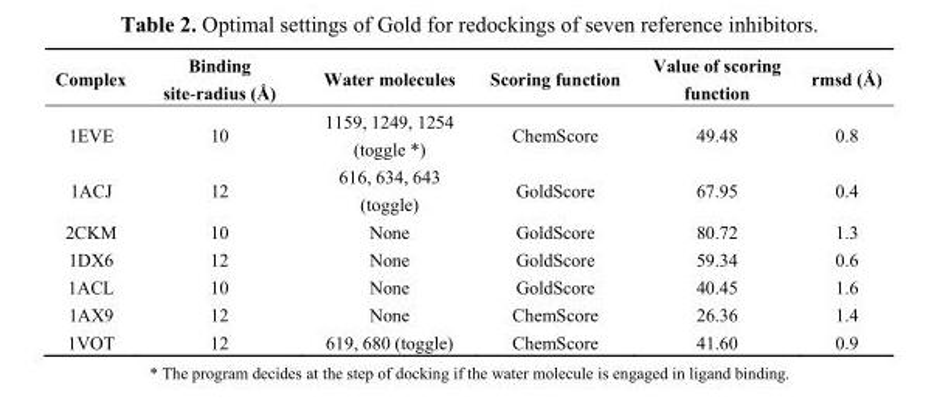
<table><thead><tr><td>Complex</td><td>Binding site-radius (Å)</td><td>Water molecules</td><td>Scoring function</td><td>Value of scoring function</td><td>rmsd (Å)</td></tr></thead><tbody><tr><td>1EVE</td><td>10</td><td>1159, 1249, 1254 (toggle *)</td><td>ChemScore</td><td>49.48</td><td>0.8</td></tr><tr><td>1ACJ</td><td>12</td><td>616, 634, 643 (toggle)</td><td>GoldScore</td><td>67.95</td><td>0.4</td></tr><tr><td>2CKM</td><td>10</td><td>None</td><td>GoldScore</td><td>80.72</td><td>1.3</td></tr><tr><td>1DX6</td><td>12</td><td>None</td><td>GoldScore</td><td>59.34</td><td>0.6</td></tr><tr><td>1ACL</td><td>10</td><td>None</td><td>GoldScore</td><td>40.45</td><td>1.6</td></tr><tr><td>1AX9</td><td>12</td><td>None</td><td>ChemScore</td><td>26.36</td><td>1.4</td></tr><tr><td>1VOT</td><td>12</td><td>619, 680 (toggle)</td><td>ChemScore</td><td>41.60</td><td>0.9</td></tr></tbody></table>